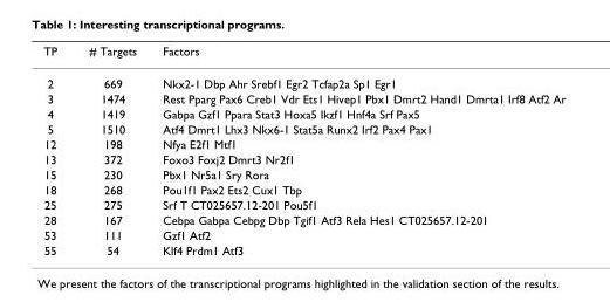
<table><thead><tr><td>TP</td><td># Targets</td><td>Factors</td></tr></thead><tbody><tr><td>2</td><td>669</td><td>Nkx2-1 Dbp Ahr Srebf1 Egr2 Tcfap2a Sp1 Egr1</td></tr><tr><td>3</td><td>1474</td><td>Rest Pparg Pax6 Creb1 Vdr Ets1 Hivep1 Pbx1 Dmrt2 Hand1 Dmrta1 Irf8 Atf2 Ar</td></tr><tr><td>4</td><td>1419</td><td>Gabpa Gzf1 Ppara Stat3 Hoxa5 Ikzf1 Hnf4a Srf Pax5</td></tr><tr><td>5</td><td>1510</td><td>Atf4 Dmrt1 Lhx3 Nkx6-1 Stat5a Runx2 Irf2 Pax4 Pax1</td></tr><tr><td>12</td><td>198</td><td>Nfya E2f1 Mtf1</td></tr><tr><td>13</td><td>372</td><td>Foxo3 Foxj2 Dmrt3 Nr2f1</td></tr><tr><td>15</td><td>230</td><td>Pbx1 Nr5a1 Sry Rora</td></tr><tr><td>18</td><td>268</td><td>Pou1f1 Pax2 Ets2 Cux1 Tbp</td></tr><tr><td>25</td><td>275</td><td>Srf T CT025657.12-201 Pou5f1</td></tr><tr><td>28</td><td>167</td><td>Cebpa Gabpa Cebpg Dbp Tgif1 Atf3 Rela Hes1 CT025657.12-201</td></tr><tr><td>53</td><td>111</td><td>Gzf1 Atf2</td></tr><tr><td>55</td><td>54</td><td>Klf4 Prdm1 Atf3</td></tr></tbody></table>